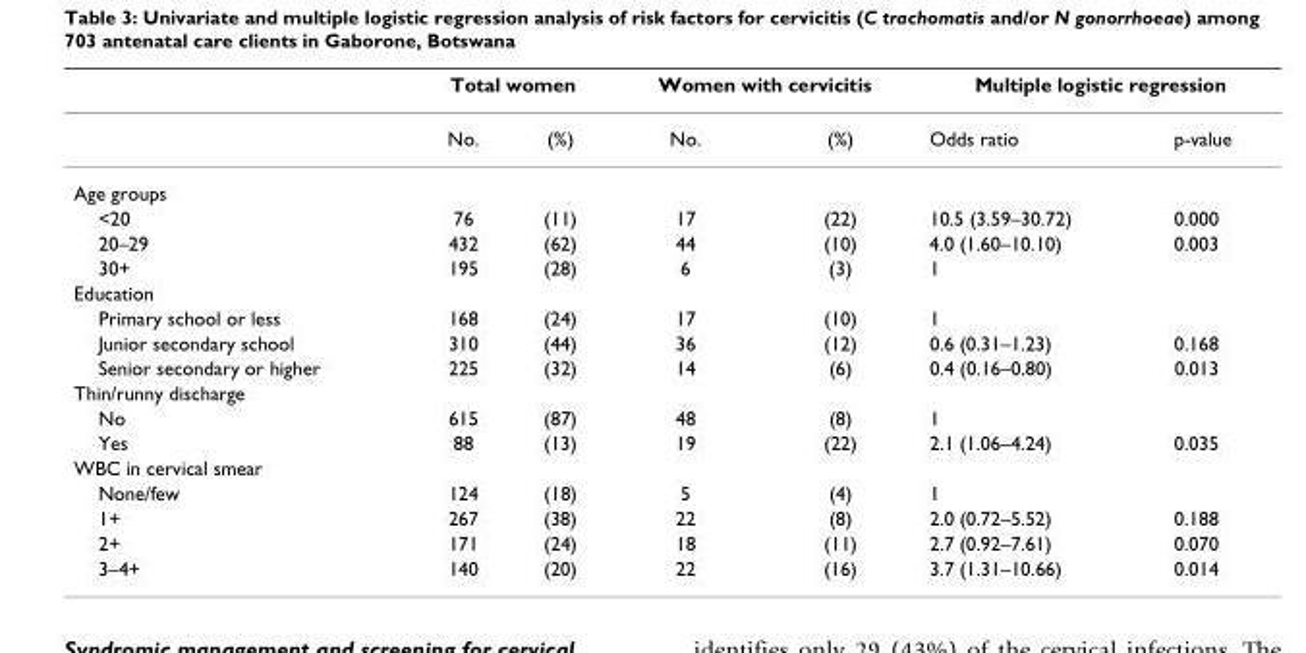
<table><thead><tr><td rowspan="2"></td><td colspan="2">Total women</td><td colspan="2">Women with cervicitis</td><td colspan="2">Multiple logistic regression</td></tr><tr><td>No.</td><td>(%)</td><td>No.</td><td>(%)</td><td>Odds ratio</td><td>p-value</td></tr></thead><tbody><tr><td colspan="7">Age groups</td></tr><tr><td>&lt;20</td><td>76</td><td>(11)</td><td>17</td><td>(22)</td><td>10.5 (3.59–30.72)</td><td>0.000</td></tr><tr><td>20–29</td><td>432</td><td>(62)</td><td>44</td><td>(10)</td><td>4.0 (1.60–10.10)</td><td>0.003</td></tr><tr><td>30+</td><td>195</td><td>(28)</td><td>6</td><td>(3)</td><td>1</td><td></td></tr><tr><td colspan="7">Education</td></tr><tr><td>Primary school or less</td><td>168</td><td>(24)</td><td>17</td><td>(10)</td><td>1</td><td></td></tr><tr><td>Junior secondary school</td><td>310</td><td>(44)</td><td>36</td><td>(12)</td><td>0.6 (0.31–1.23)</td><td>0.168</td></tr><tr><td>Senior secondary or higher</td><td>225</td><td>(32)</td><td>14</td><td>(6)</td><td>0.4 (0.16–0.80)</td><td>0.013</td></tr><tr><td colspan="7">Thin/runny discharge</td></tr><tr><td>No</td><td>615</td><td>(87)</td><td>48</td><td>(8)</td><td>1</td><td></td></tr><tr><td>Yes</td><td>88</td><td>(13)</td><td>19</td><td>(22)</td><td>2.1 (1.06–4.24)</td><td>0.035</td></tr><tr><td colspan="7">WBC in cervical smear</td></tr><tr><td>None/few</td><td>124</td><td>(18)</td><td>5</td><td>(4)</td><td>1</td><td></td></tr><tr><td>1+</td><td>267</td><td>(38)</td><td>22</td><td>(8)</td><td>2.0 (0.72–5.52)</td><td>0.188</td></tr><tr><td>2+</td><td>171</td><td>(24)</td><td>18</td><td>(11)</td><td>2.7 (0.92–7.61)</td><td>0.070</td></tr><tr><td>3–4+</td><td>140</td><td>(20)</td><td>22</td><td>(16)</td><td>3.7 (1.31–10.66)</td><td>0.014</td></tr></tbody></table>